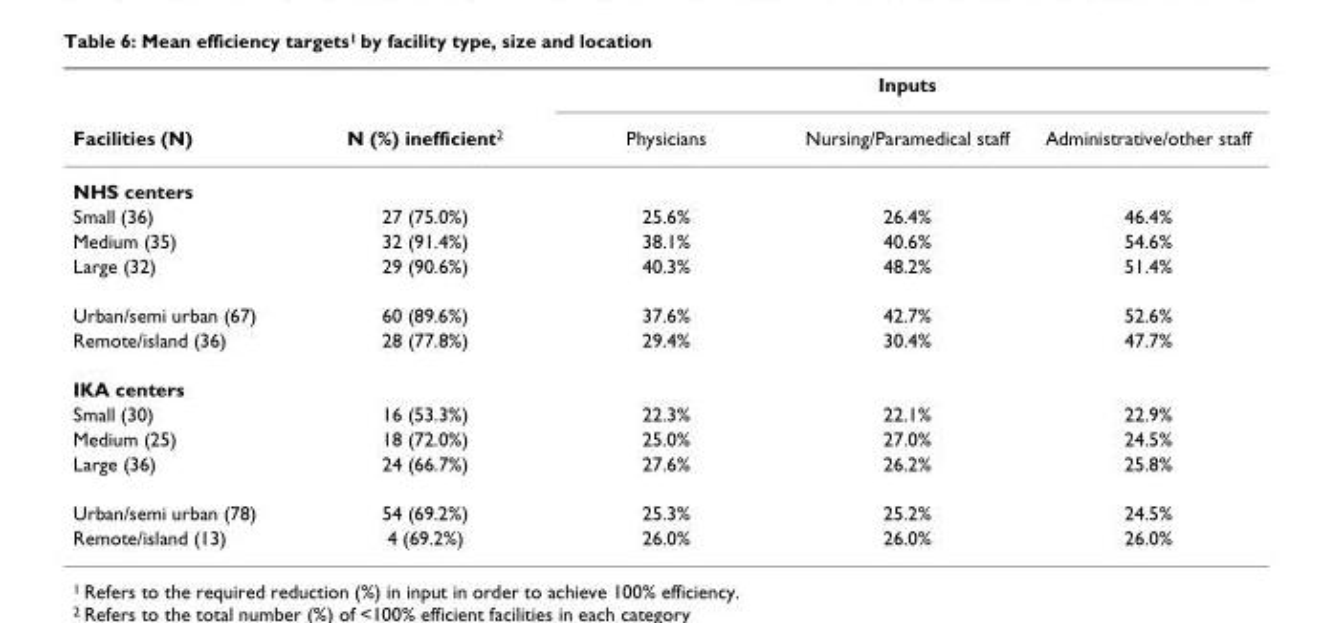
<table><thead><tr><td rowspan="2">Facilities (N)</td><td rowspan="2">N (%) inefficient<sup>2</sup></td><td colspan="3">Inputs</td></tr><tr><td>Physicians</td><td>Nursing/Paramedical staff</td><td>Administrative/other staff</td></tr></thead><tbody><tr><td colspan="5">NHS centers</td></tr><tr><td>Small (36)</td><td>27 (75.0%)</td><td>25.6%</td><td>26.4%</td><td>46.4%</td></tr><tr><td>Medium (35)</td><td>32 (91.4%)</td><td>38.1%</td><td>40.6%</td><td>54.6%</td></tr><tr><td>Large (32)</td><td>29 (90.6%)</td><td>40.3%</td><td>48.2%</td><td>51.4%</td></tr><tr><td>Urban/semi urban (67)</td><td>60 (89.6%)</td><td>37.6%</td><td>42.7%</td><td>52.6%</td></tr><tr><td>Remote/island (36)</td><td>28 (77.8%)</td><td>29.4%</td><td>30.4%</td><td>47.7%</td></tr><tr><td colspan="5">IKA centers</td></tr><tr><td>Small (30)</td><td>16 (53.3%)</td><td>22.3%</td><td>22.1%</td><td>22.9%</td></tr><tr><td>Medium (25)</td><td>18 (72.0%)</td><td>25.0%</td><td>27.0%</td><td>24.5%</td></tr><tr><td>Large (36)</td><td>24 (66.7%)</td><td>27.6%</td><td>26.2%</td><td>25.8%</td></tr><tr><td>Urban/semi urban (78)</td><td>54 (69.2%)</td><td>25.3%</td><td>25.2%</td><td>24.5%</td></tr><tr><td>Remote/island (13)</td><td>4 (69.2%)</td><td>26.0%</td><td>26.0%</td><td>26.0%</td></tr></tbody></table>